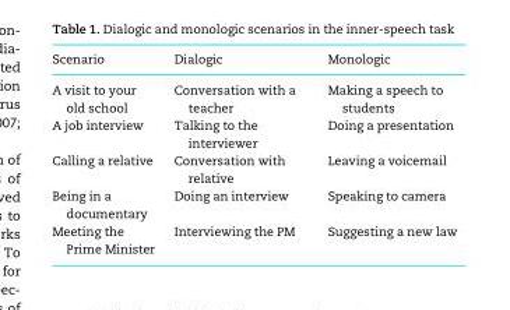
<table><thead><tr><td>Scenario</td><td>Dialogic</td><td>Monologic</td></tr></thead><tbody><tr><td>A visit to your old school</td><td>Conversation with a teacher</td><td>Making a speech to students</td></tr><tr><td>A job interview</td><td>Talking to the interviewer</td><td>Doing a presentation</td></tr><tr><td>Calling a relative</td><td>Conversation with relative</td><td>Leaving a voicemail</td></tr><tr><td>Being in a documentary</td><td>Doing an interview</td><td>Speaking to camera</td></tr><tr><td>Meeting the Prime Minister</td><td>Interviewing the PM</td><td>Suggesting a new law</td></tr></tbody></table>